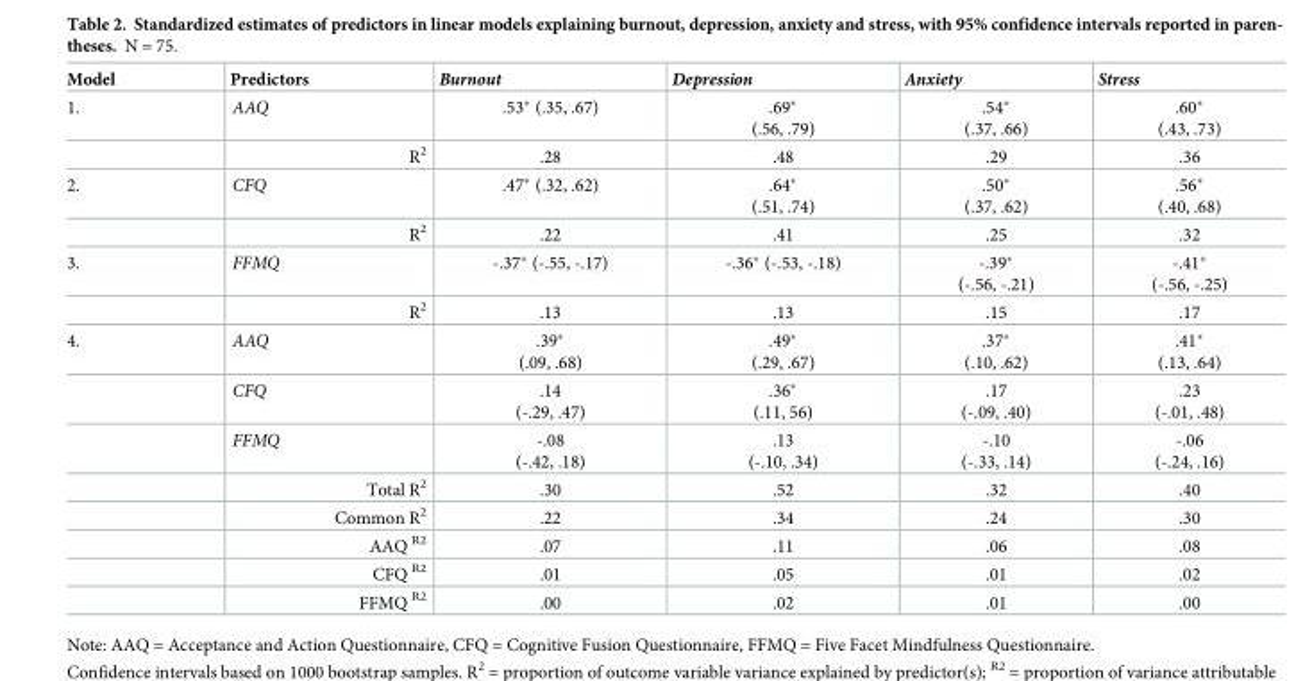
<table><thead><tr><td>Model</td><td>Predictors</td><td>Burnout</td><td>Depression</td><td>Anxiety</td><td>Stress</td></tr></thead><tbody><tr><td rowspan="2">1.</td><td>AAQ</td><td>.53* (.35, .67)</td><td>.69* (.56, .79)</td><td>.54* (.37, .66)</td><td>.60* (.43, .73)</td></tr><tr><td>R<sup>2</sup></td><td>.28</td><td>.48</td><td>.29</td><td>.36</td></tr><tr><td rowspan="2">2.</td><td>CFQ</td><td>.47* (.32, .62)</td><td>.64* (.51, .74)</td><td>.50* (.37, .62)</td><td>.56* (.40, .68)</td></tr><tr><td>R<sup>2</sup></td><td>.22</td><td>.41</td><td>.25</td><td>.32</td></tr><tr><td rowspan="2">3.</td><td>FFMQ</td><td>-.37* (-.55, -.17)</td><td>-.36* (-.53, -.18)</td><td>-.39* (-.56, -.21)</td><td>-.41* (-.56, -.25)</td></tr><tr><td>R<sup>2</sup></td><td>.13</td><td>.13</td><td>.15</td><td>.17</td></tr><tr><td rowspan="8">4.</td><td>AAQ</td><td>.39* (.09, .68)</td><td>.49* (.29, .67)</td><td>.37* (.10, .62)</td><td>.41* (.13, .64)</td></tr><tr><td>CFQ</td><td>.14 (-.29, .47)</td><td>.36* (.11, 56)</td><td>.17 (-.09, .40)</td><td>.23 (-.01, .48)</td></tr><tr><td>FFMQ</td><td>-.08 (-.42, .18)</td><td>.13 (-.10, .34)</td><td>-.10 (-.33, .14)</td><td>-.06 (-.24, .16)</td></tr><tr><td>Total R<sup>2</sup></td><td>.30</td><td>.52</td><td>.32</td><td>.40</td></tr><tr><td>Common R<sup>2</sup></td><td>.22</td><td>.34</td><td>.24</td><td>.30</td></tr><tr><td>AAQ <sup>R2</sup></td><td>.07</td><td>.11</td><td>.06</td><td>.08</td></tr><tr><td>CFQ <sup>R2</sup></td><td>.01</td><td>.05</td><td>.01</td><td>.02</td></tr><tr><td>FFMQ <sup>R2</sup></td><td>.00</td><td>.02</td><td>.01</td><td>.00</td></tr></tbody></table>